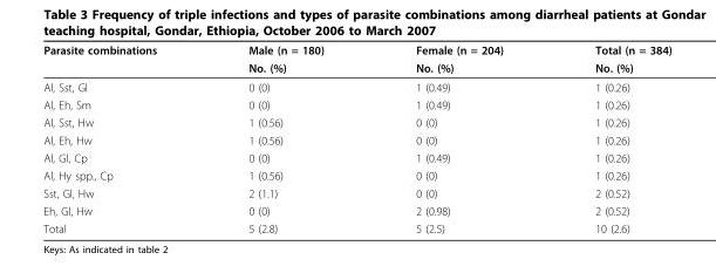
<table><thead><tr><td rowspan="2">Parasite combinations</td><td rowspan="2">Male (n = 180) No. (%)</td><td rowspan="2">Female (n = 204) No. (%)</td><td rowspan="2">Total (n = 384) No. (%)</td></tr><tr></tr></thead><tbody><tr><td>Al, Sst, Gl</td><td>0 (0)</td><td>1 (0.49)</td><td>1 (0.26)</td></tr><tr><td>Al, Eh, Sm</td><td>0 (0)</td><td>1 (0.49)</td><td>1 (0.26)</td></tr><tr><td>Al, Sst, Hw</td><td>1 (0.56)</td><td>0 (0)</td><td>1 (0.26)</td></tr><tr><td>Al, Eh, Hw</td><td>1 (0.56)</td><td>0 (0)</td><td>1 (0.26)</td></tr><tr><td>Al, Gl, Cp</td><td>0 (0)</td><td>1 (0.49)</td><td>1 (0.26)</td></tr><tr><td>Al, Hy spp., Cp</td><td>1 (0.56)</td><td>0 (0)</td><td>1 (0.26)</td></tr><tr><td>Sst, Gl, Hw</td><td>2 (1.1)</td><td>0 (0)</td><td>2 (0.52)</td></tr><tr><td>Eh, Gl, Hw</td><td>0 (0)</td><td>2 (0.98)</td><td>2 (0.52)</td></tr><tr><td>Total</td><td>5 (2.8)</td><td>5 (2.5)</td><td>10 (2.6)</td></tr></tbody></table>